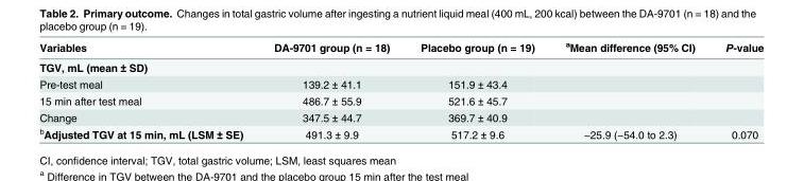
<table><thead><tr><td>Variables</td><td>DA-9701 group (n = 18)</td><td>Placebo group (n = 19)</td><td><sup>a</sup>Mean difference (95% CI)</td><td>P-value</td></tr></thead><tbody><tr><td colspan="5">TGV, mL (mean ± SD)</td></tr><tr><td>Pre-test meal</td><td>139.2 ± 41.1</td><td>151.9 ± 43.4</td><td></td><td></td></tr><tr><td>15 min after test meal</td><td>486.7 ± 55.9</td><td>521.6 ± 45.7</td><td></td><td></td></tr><tr><td>Change</td><td>347.5 ± 44.7</td><td>369.7 ± 40.9</td><td></td><td></td></tr><tr><td><sup>b</sup>Adjusted TGV at 15 min, mL (LSM ± SE)</td><td>491.3 ± 9.9</td><td>517.2 ± 9.6</td><td>−25.9 (−54.0 to 2.3)</td><td>0.070</td></tr></tbody></table>